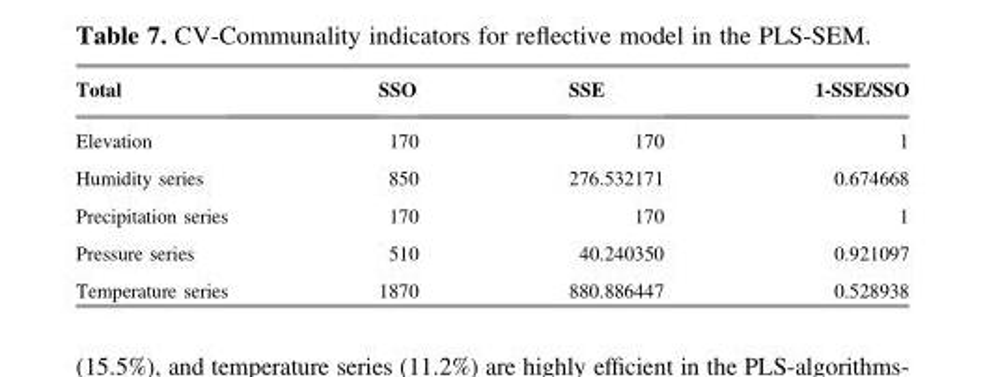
<table><thead><tr><td>Total</td><td>SSO</td><td>SSE</td><td>1-SSE/SSO</td></tr></thead><tbody><tr><td>Elevation</td><td>170</td><td>170</td><td>1</td></tr><tr><td>Humidity series</td><td>850</td><td>276.532171</td><td>0.674668</td></tr><tr><td>Precipitation series</td><td>170</td><td>170</td><td>1</td></tr><tr><td>Pressure series</td><td>510</td><td>40.240350</td><td>0.921097</td></tr><tr><td>Temperature series</td><td>1870</td><td>880.886447</td><td>0.528938</td></tr></tbody></table>